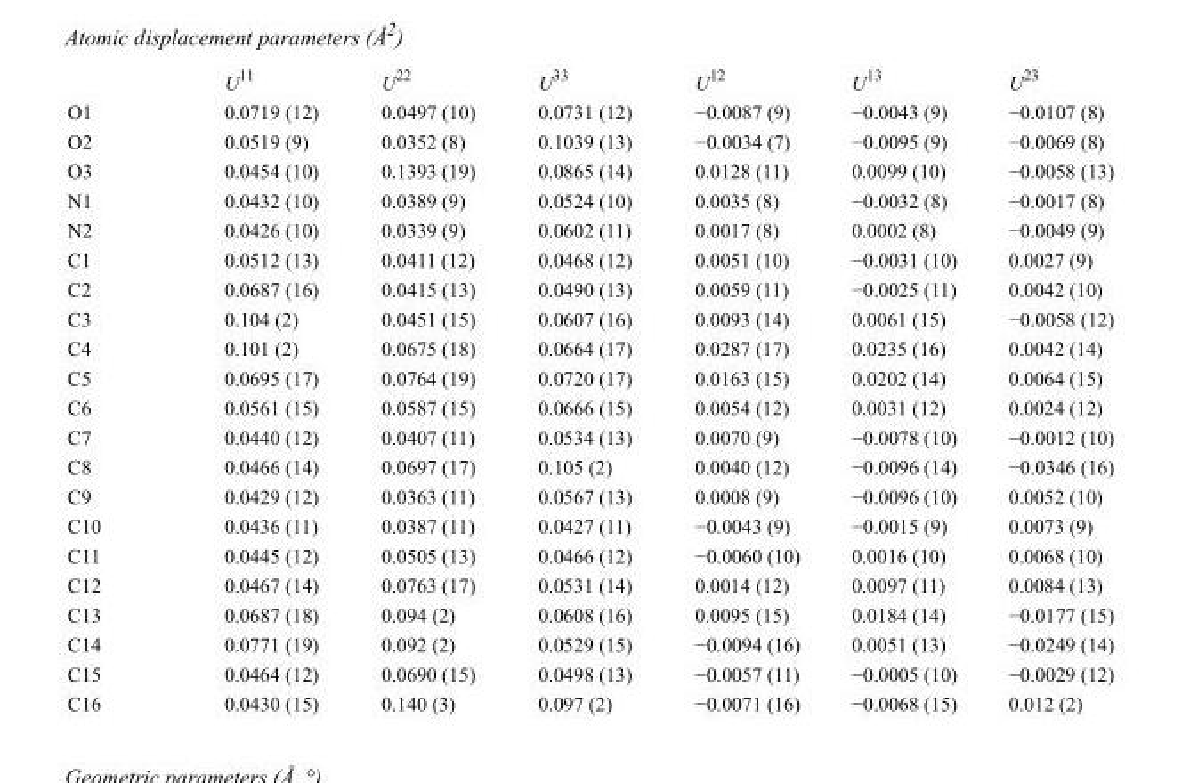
<table><thead><tr><td></td><td>U<sup>11</sup></td><td>U<sup>22</sup></td><td>U<sup>33</sup></td><td>U<sup>12</sup></td><td>U<sup>13</sup></td><td>U<sup>23</sup></td></tr></thead><tbody><tr><td>O1</td><td>0.0719 (12)</td><td>0.0497 (10)</td><td>0.0731 (12)</td><td>−0.0087 (9)</td><td>−0.0043 (9)</td><td>−0.0107 (8)</td></tr><tr><td>O2</td><td>0.0519 (9)</td><td>0.0352 (8)</td><td>0.1039 (13)</td><td>−0.0034 (7)</td><td>−0.0095 (9)</td><td>−0.0069 (8)</td></tr><tr><td>O3</td><td>0.0454 (10)</td><td>0.1393 (19)</td><td>0.0865 (14)</td><td>0.0128 (11)</td><td>0.0099 (10)</td><td>−0.0058 (13)</td></tr><tr><td>N1</td><td>0.0432 (10)</td><td>0.0389 (9)</td><td>0.0524 (10)</td><td>0.0035 (8)</td><td>−0.0032 (8)</td><td>−0.0017 (8)</td></tr><tr><td>N2</td><td>0.0426 (10)</td><td>0.0339 (9)</td><td>0.0602 (11)</td><td>0.0017 (8)</td><td>0.0002 (8)</td><td>−0.0049 (9)</td></tr><tr><td>C1</td><td>0.0512 (13)</td><td>0.0411 (12)</td><td>0.0468 (12)</td><td>0.0051 (10)</td><td>−0.0031 (10)</td><td>0.0027 (9)</td></tr><tr><td>C2</td><td>0.0687 (16)</td><td>0.0415 (13)</td><td>0.0490 (13)</td><td>0.0059 (11)</td><td>−0.0025 (11)</td><td>0.0042 (10)</td></tr><tr><td>C3</td><td>0.104 (2)</td><td>0.0451 (15)</td><td>0.0607 (16)</td><td>0.0093 (14)</td><td>0.0061 (15)</td><td>−0.0058 (12)</td></tr><tr><td>C4</td><td>0.101 (2)</td><td>0.0675 (18)</td><td>0.0664 (17)</td><td>0.0287 (17)</td><td>0.0235 (16)</td><td>0.0042 (14)</td></tr><tr><td>C5</td><td>0.0695 (17)</td><td>0.0764 (19)</td><td>0.0720 (17)</td><td>0.0163 (15)</td><td>0.0202 (14)</td><td>0.0064 (15)</td></tr><tr><td>C6</td><td>0.0561 (15)</td><td>0.0587 (15)</td><td>0.0666 (15)</td><td>0.0054 (12)</td><td>0.0031 (12)</td><td>0.0024 (12)</td></tr><tr><td>C7</td><td>0.0440 (12)</td><td>0.0407 (11)</td><td>0.0534 (13)</td><td>0.0070 (9)</td><td>−0.0078 (10)</td><td>−0.0012 (10)</td></tr><tr><td>C8</td><td>0.0466 (14)</td><td>0.0697 (17)</td><td>0.105 (2)</td><td>0.0040 (12)</td><td>−0.0096 (14)</td><td>−0.0346 (16)</td></tr><tr><td>C9</td><td>0.0429 (12)</td><td>0.0363 (11)</td><td>0.0567 (13)</td><td>0.0008 (9)</td><td>−0.0096 (10)</td><td>0.0052 (10)</td></tr><tr><td>C10</td><td>0.0436 (11)</td><td>0.0387 (11)</td><td>0.0427 (11)</td><td>−0.0043 (9)</td><td>−0.0015 (9)</td><td>0.0073 (9)</td></tr><tr><td>C11</td><td>0.0445 (12)</td><td>0.0505 (13)</td><td>0.0466 (12)</td><td>−0.0060 (10)</td><td>0.0016 (10)</td><td>0.0068 (10)</td></tr><tr><td>C12</td><td>0.0467 (14)</td><td>0.0763 (17)</td><td>0.0531 (14)</td><td>0.0014 (12)</td><td>0.0097 (11)</td><td>0.0084 (13)</td></tr><tr><td>C13</td><td>0.0687 (18)</td><td>0.094 (2)</td><td>0.0608 (16)</td><td>0.0095 (15)</td><td>0.0184 (14)</td><td>−0.0177 (15)</td></tr><tr><td>C14</td><td>0.0771 (19)</td><td>0.092 (2)</td><td>0.0529 (15)</td><td>−0.0094 (16)</td><td>0.0051 (13)</td><td>−0.0249 (14)</td></tr><tr><td>C15</td><td>0.0464 (12)</td><td>0.0690 (15)</td><td>0.0498 (13)</td><td>−0.0057 (11)</td><td>−0.0005 (10)</td><td>−0.0029 (12)</td></tr><tr><td>C16</td><td>0.0430 (15)</td><td>0.140 (3)</td><td>0.097 (2)</td><td>−0.0071 (16)</td><td>−0.0068 (15)</td><td>0.012 (2)</td></tr></tbody></table>